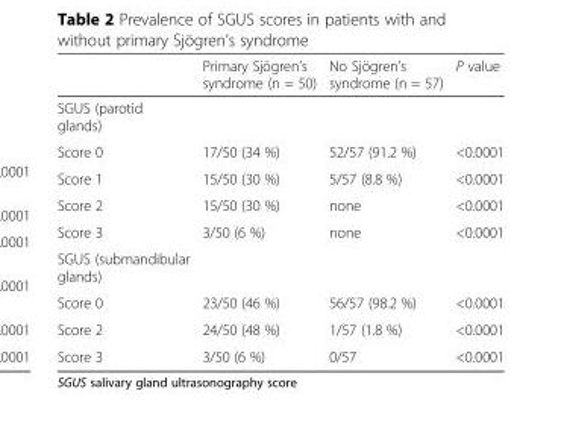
<table><thead><tr><td></td><td>Primary Sjögren’s syndrome (n = 50)</td><td>No Sjögren’s syndrome (n = 57)</td><td>P value</td></tr></thead><tbody><tr><td colspan="4">SGUS (parotid glands)</td></tr><tr><td>Score 0</td><td>17/50 (34 %)</td><td>52/57 (91.2 %)</td><td>&lt;0.0001</td></tr><tr><td>Score 1</td><td>15/50 (30 %)</td><td>5/57 (8.8 %)</td><td>&lt;0.0001</td></tr><tr><td>Score 2</td><td>15/50 (30 %)</td><td>none</td><td>&lt;0.0001</td></tr><tr><td>Score 3</td><td>3/50 (6 %)</td><td>none</td><td>&lt;0.0001</td></tr><tr><td colspan="4">SGUS (submandibular glands)</td></tr><tr><td>Score 0</td><td>23/50 (46 %)</td><td>56/57 (98.2 %)</td><td>&lt;0.0001</td></tr><tr><td>Score 2</td><td>24/50 (48 %)</td><td>1/57 (1.8 %)</td><td>&lt;0.0001</td></tr><tr><td>Score 3</td><td>3/50 (6 %)</td><td>0/57</td><td>&lt;0.0001</td></tr></tbody></table>